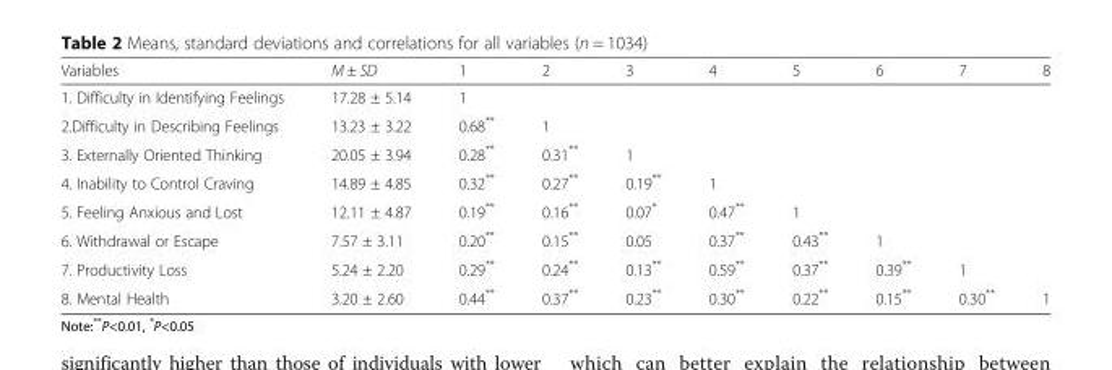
<table><thead><tr><td>Variables</td><td>M ± SD</td><td>1</td><td>2</td><td>3</td><td>4</td><td>5</td><td>6</td><td>7</td><td>8</td></tr></thead><tbody><tr><td>1. Difficulty in Identifying Feelings</td><td>17.28 ± 5.14</td><td>1</td><td></td><td></td><td></td><td></td><td></td><td></td><td></td></tr><tr><td>2.Difficulty in Describing Feelings</td><td>13.23 ± 3.22</td><td>0.68**</td><td>1</td><td></td><td></td><td></td><td></td><td></td><td></td></tr><tr><td>3. Externally Oriented Thinking</td><td>20.05 ± 3.94</td><td>0.28**</td><td>0.31**</td><td>1</td><td></td><td></td><td></td><td></td><td></td></tr><tr><td>4. Inability to Control Craving</td><td>14.89 ± 4.85</td><td>0.32**</td><td>0.27**</td><td>0.19**</td><td>1</td><td></td><td></td><td></td><td></td></tr><tr><td>5. Feeling Anxious and Lost</td><td>12.11 ± 4.87</td><td>0.19**</td><td>0.16**</td><td>0.07*</td><td>0.47**</td><td>1</td><td></td><td></td><td></td></tr><tr><td>6. Withdrawal or Escape</td><td>7.57 ± 3.11</td><td>0.20**</td><td>0.15**</td><td>0.05</td><td>0.37**</td><td>0.43**</td><td>1</td><td></td><td></td></tr><tr><td>7. Productivity Loss</td><td>5.24 ± 2.20</td><td>0.29**</td><td>0.24**</td><td>0.13**</td><td>0.59**</td><td>0.37**</td><td>0.39**</td><td>1</td><td></td></tr><tr><td>8. Mental Health</td><td>3.20 ± 2.60</td><td>0.44**</td><td>0.37**</td><td>0.23**</td><td>0.30**</td><td>0.22**</td><td>0.15**</td><td>0.30**</td><td>1</td></tr></tbody></table>